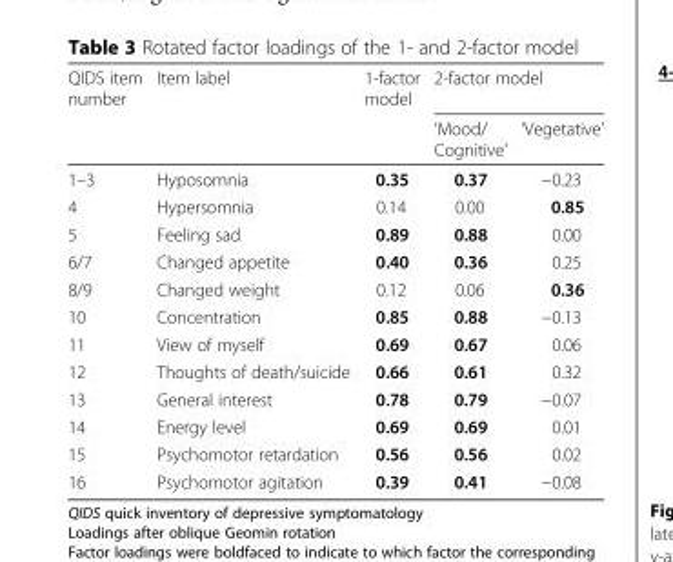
<table><thead><tr><td rowspan="2">QIDS item number</td><td rowspan="2">Item label</td><td rowspan="2">1-factor model</td><td colspan="2">2-factor model</td></tr><tr><td>‘Mood/ Cognitive’</td><td>‘Vegetative’</td></tr></thead><tbody><tr><td>1–3</td><td>Hyposomnia</td><td>0.35</td><td>0.37</td><td>−0.23</td></tr><tr><td>4</td><td>Hypersomnia</td><td>0.14</td><td>0.00</td><td>0.85</td></tr><tr><td>5</td><td>Feeling sad</td><td>0.89</td><td>0.88</td><td>0.00</td></tr><tr><td>6/7</td><td>Changed appetite</td><td>0.40</td><td>0.36</td><td>0.25</td></tr><tr><td>8/9</td><td>Changed weight</td><td>0.12</td><td>0.06</td><td>0.36</td></tr><tr><td>10</td><td>Concentration</td><td>0.85</td><td>0.88</td><td>−0.13</td></tr><tr><td>11</td><td>View of myself</td><td>0.69</td><td>0.67</td><td>0.06</td></tr><tr><td>12</td><td>Thoughts of death/suicide</td><td>0.66</td><td>0.61</td><td>0.32</td></tr><tr><td>13</td><td>General interest</td><td>0.78</td><td>0.79</td><td>−0.07</td></tr><tr><td>14</td><td>Energy level</td><td>0.69</td><td>0.69</td><td>0.01</td></tr><tr><td>15</td><td>Psychomotor retardation</td><td>0.56</td><td>0.56</td><td>0.02</td></tr><tr><td>16</td><td>Psychomotor agitation</td><td>0.39</td><td>0.41</td><td>−0.08</td></tr></tbody></table>